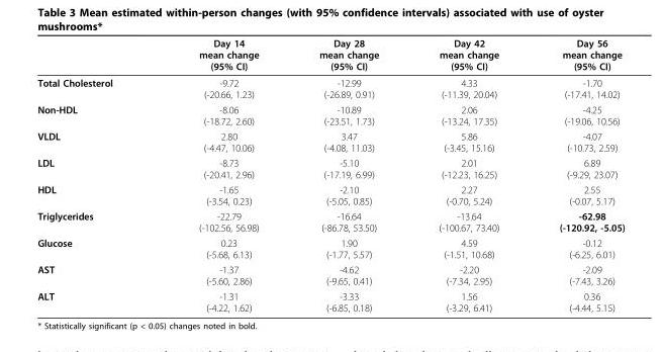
<table><thead><tr><td></td><td>Day 14 mean change (95% CI)</td><td>Day 28 mean change (95% CI)</td><td>Day 42 mean change (95% CI)</td><td>Day 56 mean change (95% CI)</td></tr></thead><tbody><tr><td>Total Cholesterol</td><td>-9.72 (-20.66, 1.23)</td><td>-12.99 (-26.89, 0.91)</td><td>4.33 (-11.39, 20.04)</td><td>-1.70 (-17.41, 14.02)</td></tr><tr><td>Non-HDL</td><td>-8.06 (-18.72, 2.60)</td><td>-10.89 (-23.51, 1.73)</td><td>2.06 (-13.24, 17.35)</td><td>-4.25 (-19.06, 10.56)</td></tr><tr><td>VLDL</td><td>2.80 (-4.47, 10.06)</td><td>3.47 (-4.08, 11.03)</td><td>5.86 (-3.45, 15.16)</td><td>-4.07 (-10.73, 2.59)</td></tr><tr><td>LDL</td><td>-8.73 (-20.41, 2.96)</td><td>-5.10 (-17.19, 6.99)</td><td>2.01 (-12.23, 16.25)</td><td>6.89 (-9.29, 23.07)</td></tr><tr><td>HDL</td><td>-1.65 (-3.54, 0.23)</td><td>-2.10 (-5.05, 0.85)</td><td>2.27 (-0.70, 5.24)</td><td>2.55 (-0.07, 5.17)</td></tr><tr><td>Triglycerides</td><td>-22.79 (-102.56, 56.98)</td><td>-16.64 (-86.78, 53.50)</td><td>-13.64 (-100.67, 73.40)</td><td>-62.98 (-120.92, -5.05)</td></tr><tr><td>Glucose</td><td>0.23 (-5.68, 6.13)</td><td>1.90 (-1.77, 5.57)</td><td>4.59 (-1.51, 10.68)</td><td>-0.12 (-6.25, 6.01)</td></tr><tr><td>AST</td><td>-1.37 (-5.60, 2.86)</td><td>-4.62 (-9.65, 0.41)</td><td>-2.20 (-7.34, 2.95)</td><td>-2.09 (-7.43, 3.26)</td></tr><tr><td>ALT</td><td>-1.31 (-4.22, 1.62)</td><td>-3.33 (-6.85, 0.18)</td><td>1.56 (-3.29, 6.41)</td><td>0.36 (-4.44, 5.15)</td></tr></tbody></table>